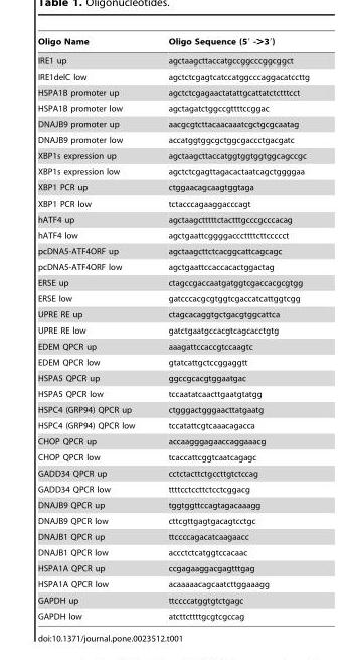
<table><thead><tr><td>Oligo Name</td><td>Oligo Sequence (5′ -&gt;3′)</td></tr></thead><tbody><tr><td>IRE1 up</td><td>agctaagcttaccatgccggcccggcggct</td></tr><tr><td>IRE1delC low</td><td>agctctcgagtcatccatggcccaggacatccttg</td></tr><tr><td>HSPA1B promoter up</td><td>agctctcgagaactatattgcattatctctttcct</td></tr><tr><td>HSPA1B promoter low</td><td>agctagatctggccgttttccggac</td></tr><tr><td>DNAJB9 promoter up</td><td>aacgcgtcttacaacaaatcgctgcgcaatag</td></tr><tr><td>DNAJB9 promoter low</td><td>accatggtggcgctggcgaccctgacgatc</td></tr><tr><td>XBP1s expression up</td><td>agctaagcttaccatggtggtggtggcagccgc</td></tr><tr><td>XBP1s expression low</td><td>agctctcgagttagacactaatcagctggggaa</td></tr><tr><td>XBP1 PCR up</td><td>ctggaacagcaagtggtaga</td></tr><tr><td>XBP1 PCR low</td><td>tctacccagaaggacccagt</td></tr><tr><td>hATF4 up</td><td>agctaagctttttctactttgcccgcccacag</td></tr><tr><td>hATF4 low</td><td>agctgaattcggggacccttttcttccccct</td></tr><tr><td>pcDNA5-ATF4ORF up</td><td>agctaagcttctcacggcattcagcagc</td></tr><tr><td>pcDNA5-ATF4ORF low</td><td>agctgaattccaccacactggactag</td></tr><tr><td>ERSE up</td><td>ctagccgaccaatgatggtcgaccacgcgtgg</td></tr><tr><td>ERSE low</td><td>gatcccacgcgtggtcgaccatcattggtcgg</td></tr><tr><td>UPRE RE up</td><td>ctagcacaggtgctgacgtggcattca</td></tr><tr><td>UPRE RE low</td><td>gatctgaatgccacgtcagcacctgtg</td></tr><tr><td>EDEM QPCR up</td><td>aaagattccaccgtccaagtc</td></tr><tr><td>EDEM QPCR low</td><td>gtatcattgctccggaggtt</td></tr><tr><td>HSPA5 QPCR up</td><td>ggccgcacgtggaatgac</td></tr><tr><td>HSPA5 QPCR low</td><td>tccaatatcaacttgaatgtatgg</td></tr><tr><td>HSPC4 (GRP94) QPCR up</td><td>ctgggactgggaacttatgaatg</td></tr><tr><td>HSPC4 (GRP94) QPCR low</td><td>tccatattcgtcaaacagacca</td></tr><tr><td>CHOP QPCR up</td><td>accaagggagaaccaggaaacg</td></tr><tr><td>CHOP QPCR low</td><td>tcaccattcggtcaatcagagc</td></tr><tr><td>GADD34 QPCR up</td><td>cctctacttctgccttgtctccag</td></tr><tr><td>GADD34 QPCR low</td><td>ttttcctccttctcctcggacg</td></tr><tr><td>DNAJB9 QPCR up</td><td>tggtggttccagtagacaaagg</td></tr><tr><td>DNAJB9 QPCR low</td><td>cttcgttgagtgacagtcctgc</td></tr><tr><td>DNAJB1 QPCR up</td><td>ttccccagacatcaagaacc</td></tr><tr><td>DNAJB1 QPCR low</td><td>accctctcatggtccacaac</td></tr><tr><td>HSPA1A QPCR up</td><td>ccgagaaggacgagtttgag</td></tr><tr><td>HSPA1A QPCR low</td><td>acaaaaacagcaatcttggaaagg</td></tr><tr><td>GAPDH up</td><td>ttccccatggtgtctgagc</td></tr><tr><td>GAPDH low</td><td>atcttcttttgcgtcgccag</td></tr></tbody></table>